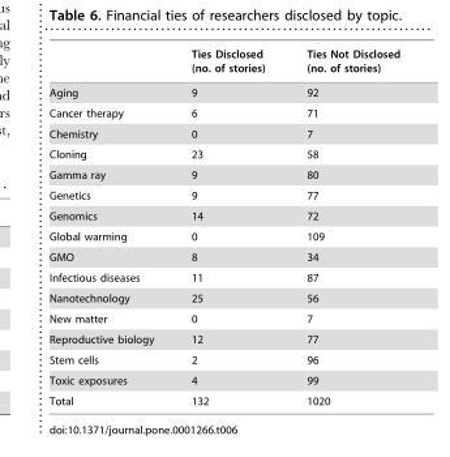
<table><thead><tr><td></td><td>Ties Disclosed (no. of stories)</td><td>Ties Not Disclosed (no. of stories)</td></tr></thead><tbody><tr><td>Aging</td><td>9</td><td>92</td></tr><tr><td>Cancer therapy</td><td>6</td><td>71</td></tr><tr><td>Chemistry</td><td>0</td><td>7</td></tr><tr><td>Cloning</td><td>23</td><td>58</td></tr><tr><td>Gamma ray</td><td>9</td><td>80</td></tr><tr><td>Genetics</td><td>9</td><td>77</td></tr><tr><td>Genomics</td><td>14</td><td>72</td></tr><tr><td>Global warming</td><td>0</td><td>109</td></tr><tr><td>GMO</td><td>8</td><td>34</td></tr><tr><td>Infectious diseases</td><td>11</td><td>87</td></tr><tr><td>Nanotechnology</td><td>25</td><td>56</td></tr><tr><td>New matter</td><td>0</td><td>7</td></tr><tr><td>Reproductive biology</td><td>12</td><td>77</td></tr><tr><td>Stem cells</td><td>2</td><td>96</td></tr><tr><td>Toxic exposures</td><td>4</td><td>99</td></tr><tr><td>Total</td><td>132</td><td>1020</td></tr></tbody></table>